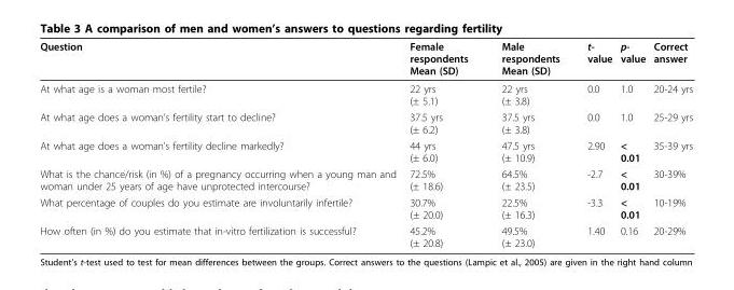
<table><thead><tr><td>Question</td><td>Female respondents Mean (SD)</td><td>Male respondents Mean (SD)</td><td>t- value</td><td>p- value</td><td>Correct answer</td></tr></thead><tbody><tr><td>At what age is a woman most fertile?</td><td>22 yrs (± 5.1)</td><td>22 yrs (± 3.8)</td><td>0.0</td><td>1.0</td><td>20-24 yrs</td></tr><tr><td>At what age does a woman’s fertility start to decline?</td><td>37.5 yrs (± 6.2)</td><td>37.5 yrs (± 3.8)</td><td>0.0</td><td>1.0</td><td>25-29 yrs</td></tr><tr><td>At what age does a woman’s fertility decline markedly?</td><td>44 yrs (± 6.0)</td><td>47.5 yrs (± 10.9)</td><td>2.90</td><td>&lt; 0.01</td><td>35-39 yrs</td></tr><tr><td>What is the chance/risk (in %) of a pregnancy occurring when a young man and woman under 25 years of age have unprotected intercourse?</td><td>72.5% (± 18.6)</td><td>64.5% (± 23.5)</td><td>-2.7</td><td>&lt; 0.01</td><td>30-39%</td></tr><tr><td>What percentage of couples do you estimate are involuntarily infertile?</td><td>30.7% (± 20.0)</td><td>22.5% (± 16.3)</td><td>-3.3</td><td>&lt; 0.01</td><td>10-19%</td></tr><tr><td>How often (in %) do you estimate that in-vitro fertilization is successful?</td><td>45.2% (± 20.8)</td><td>49.5% (± 23.0)</td><td>1.40</td><td>0.16</td><td>20-29%</td></tr></tbody></table>